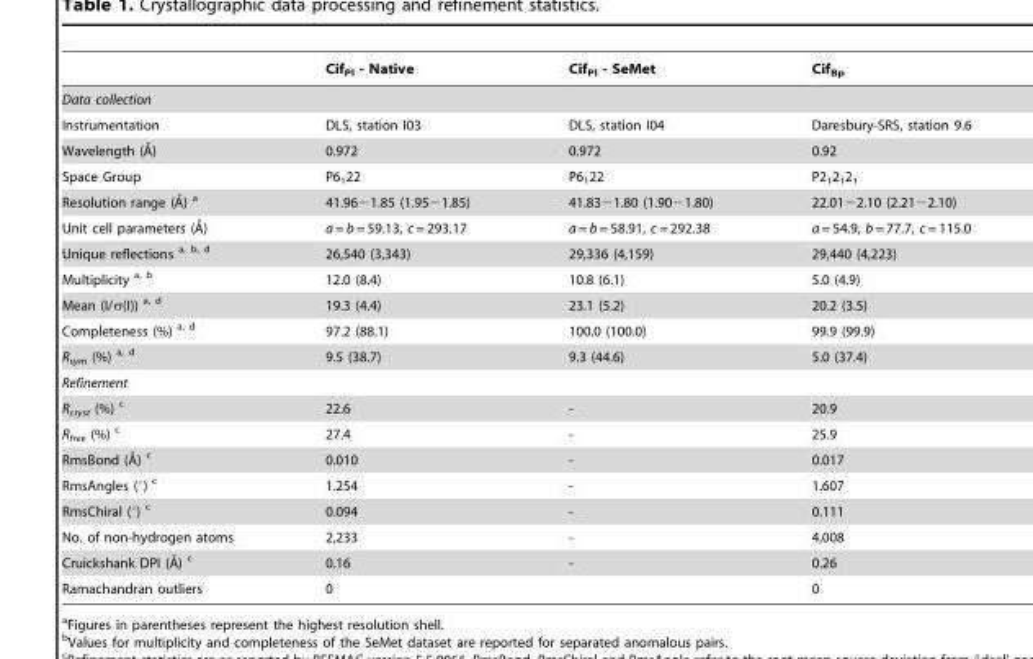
<table><thead><tr><td></td><td>Cif<sub>Pl</sub> - Native</td><td>Cif<sub>Pl</sub> - SeMet</td><td>Cif<sub>Bp</sub></td></tr></thead><tbody><tr><td colspan="4">Data collection</td></tr><tr><td>Instrumentation</td><td>DLS, station I03</td><td>DLS, station I04</td><td>Daresbury-SRS, station 9.6</td></tr><tr><td>Wavelength (A˚)</td><td>0.972</td><td>0.972</td><td>0.92</td></tr><tr><td>Space Group</td><td>P6<sub>1</sub>22</td><td>P6<sub>1</sub>22</td><td>P2<sub>1</sub>2<sub>1</sub>2<sub>1</sub></td></tr><tr><td>Resolution range (A˚) a</td><td>41.96−1.85 (1.95−1.85)</td><td>41.83−1.80 (1.90−1.80)</td><td>22.01−2.10 (2.21−2.10)</td></tr><tr><td>Unit cell parameters (A˚)</td><td>a = b = 59.13, c = 293.17</td><td>a = b = 58.91, c = 292.38</td><td>a = 54.9, b = 77.7, c = 115.0</td></tr><tr><td>Unique reflections a<sup>,</sup> b<sup>,</sup> d</td><td>26,540 (3,343)</td><td>29,336 (4,159)</td><td>29,440 (4,223)</td></tr><tr><td>Multiplicity a<sup>,</sup> b</td><td>12.0 (8.4)</td><td>10.8 (6.1)</td><td>5.0 (4.9)</td></tr><tr><td>Mean (I/σ(I)) a<sup>,</sup> d</td><td>19.3 (4.4)</td><td>23.1 (5.2)</td><td>20.2 (3.5)</td></tr><tr><td>Completeness (%) a<sup>,</sup> d</td><td>97.2 (88.1)</td><td>100.0 (100.0)</td><td>99.9 (99.9)</td></tr><tr><td>R<sub>sym</sub> (%) a<sup>,</sup> d</td><td>9.5 (38.7)</td><td>9.3 (44.6)</td><td>5.0 (37.4)</td></tr><tr><td colspan="4">Refinement</td></tr><tr><td>R<sub>cryst</sub> (%) c</td><td>22.6</td><td>-</td><td>20.9</td></tr><tr><td>R<sub>free</sub> (%) c</td><td>27.4</td><td>-</td><td>25.9</td></tr><tr><td>RmsBond (A˚) c</td><td>0.010</td><td>-</td><td>0.017</td></tr><tr><td>RmsAngles (°) c</td><td>1.254</td><td>-</td><td>1.607</td></tr><tr><td>RmsChiral (°) c</td><td>0.094</td><td>-</td><td>0.111</td></tr><tr><td>No. of non-hydrogen atoms</td><td>2,233</td><td>-</td><td>4,008</td></tr><tr><td>Cruickshank DPI (A˚) c</td><td>0.16</td><td>-</td><td>0.26</td></tr><tr><td>Ramachandran outliers</td><td>0</td><td></td><td>0</td></tr></tbody></table>